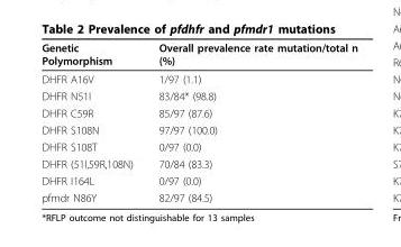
<table><thead><tr><td>Genetic Polymorphism</td><td>Overall prevalence rate mutation/total n (%)</td></tr></thead><tbody><tr><td>DHFR A16V</td><td>1/97 (1.1)</td></tr><tr><td>DHFR N51I</td><td>83/84* (98.8)</td></tr><tr><td>DHFR C59R</td><td>85/97 (87.6)</td></tr><tr><td>DHFR S108N</td><td>97/97 (100.0)</td></tr><tr><td>DHFR S108T</td><td>0/97 (0.0)</td></tr><tr><td>DHFR (51I,59R,108N)</td><td>70/84 (83.3)</td></tr><tr><td>DHFR I164L</td><td>0/97 (0.0)</td></tr><tr><td>pfmdr N86Y</td><td>82/97 (84.5)</td></tr></tbody></table>